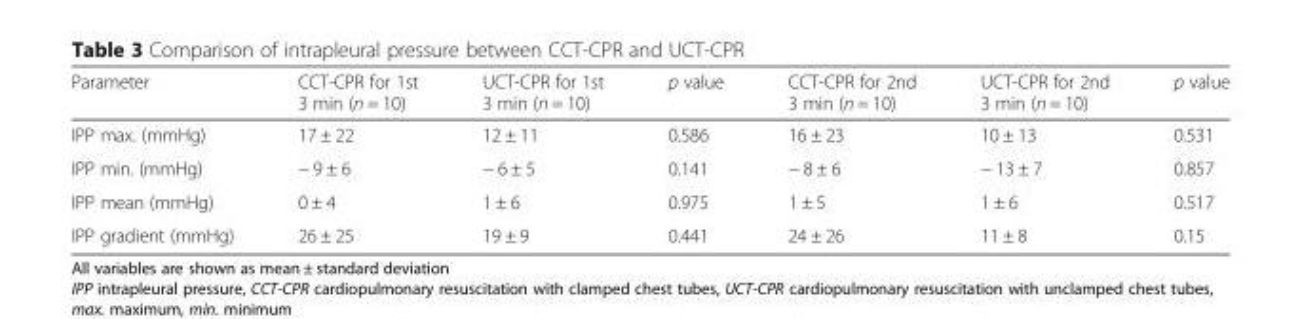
<table><thead><tr><td>Parameter</td><td>CCT-CPR for 1st 3 min (n = 10)</td><td>UCT-CPR for 1st 3 min (n = 10)</td><td>p value</td><td>CCT-CPR for 2nd 3 min (n = 10)</td><td>UCT-CPR for 2nd 3 min (n = 10)</td><td>p value</td></tr></thead><tbody><tr><td>IPP max. (mmHg)</td><td>17 ± 22</td><td>12 ± 11</td><td>0.586</td><td>16 ± 23</td><td>10 ± 13</td><td>0.531</td></tr><tr><td>IPP min. (mmHg)</td><td>− 9 ± 6</td><td>− 6 ± 5</td><td>0.141</td><td>− 8 ± 6</td><td>− 13 ± 7</td><td>0.857</td></tr><tr><td>IPP mean (mmHg)</td><td>0 ± 4</td><td>1 ± 6</td><td>0.975</td><td>1 ± 5</td><td>1 ± 6</td><td>0.517</td></tr><tr><td>IPP gradient (mmHg)</td><td>26 ± 25</td><td>19 ± 9</td><td>0.441</td><td>24 ± 26</td><td>11 ± 8</td><td>0.15</td></tr></tbody></table>